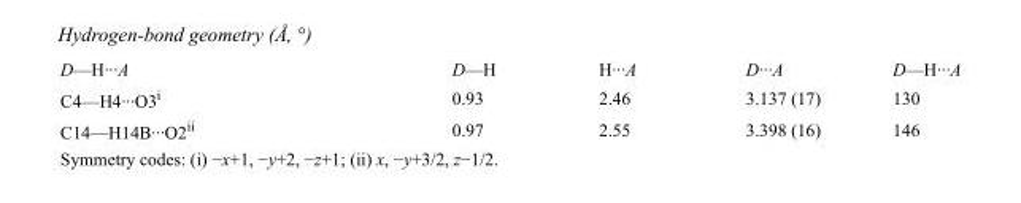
<table><tbody><tr><td>D—H···A</td><td>D—H</td><td>H···A</td><td>D···A</td><td>D—H···A</td></tr><tr><td>C4—H4···O3<sup>i</sup></td><td>0.93</td><td>2.46</td><td>3.137 (17)</td><td>130</td></tr><tr><td>C14—H14B···O2<sup>ii</sup></td><td>0.97</td><td>2.55</td><td>3.398 (16)</td><td>146</td></tr></tbody></table>